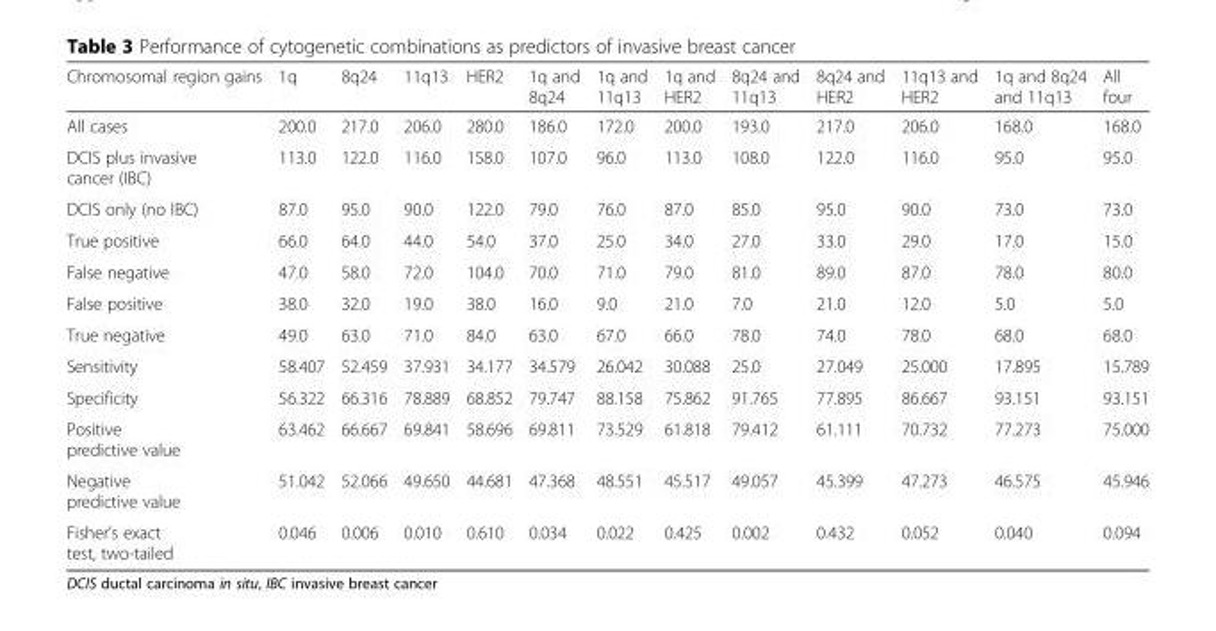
<table><thead><tr><td>Chromosomal region gains</td><td>1q</td><td>8q24</td><td>11q13</td><td>HER2</td><td>1q and 8q24</td><td>1q and 11q13</td><td>1q and HER2</td><td>8q24 and 11q13</td><td>8q24 and HER2</td><td>11q13 and HER2</td><td>1q and 8q24 and 11q13</td><td>All four</td></tr></thead><tbody><tr><td>All cases</td><td>200.0</td><td>217.0</td><td>206.0</td><td>280.0</td><td>186.0</td><td>172.0</td><td>200.0</td><td>193.0</td><td>217.0</td><td>206.0</td><td>168.0</td><td>168.0</td></tr><tr><td>DCIS plus invasive cancer (IBC)</td><td>113.0</td><td>122.0</td><td>116.0</td><td>158.0</td><td>107.0</td><td>96.0</td><td>113.0</td><td>108.0</td><td>122.0</td><td>116.0</td><td>95.0</td><td>95.0</td></tr><tr><td>DCIS only (no IBC)</td><td>87.0</td><td>95.0</td><td>90.0</td><td>122.0</td><td>79.0</td><td>76.0</td><td>87.0</td><td>85.0</td><td>95.0</td><td>90.0</td><td>73.0</td><td>73.0</td></tr><tr><td>True positive</td><td>66.0</td><td>64.0</td><td>44.0</td><td>54.0</td><td>37.0</td><td>25.0</td><td>34.0</td><td>27.0</td><td>33.0</td><td>29.0</td><td>17.0</td><td>15.0</td></tr><tr><td>False negative</td><td>47.0</td><td>58.0</td><td>72.0</td><td>104.0</td><td>70.0</td><td>71.0</td><td>79.0</td><td>81.0</td><td>89.0</td><td>87.0</td><td>78.0</td><td>80.0</td></tr><tr><td>False positive</td><td>38.0</td><td>32.0</td><td>19.0</td><td>38.0</td><td>16.0</td><td>9.0</td><td>21.0</td><td>7.0</td><td>21.0</td><td>12.0</td><td>5.0</td><td>5.0</td></tr><tr><td>True negative</td><td>49.0</td><td>63.0</td><td>71.0</td><td>84.0</td><td>63.0</td><td>67.0</td><td>66.0</td><td>78.0</td><td>74.0</td><td>78.0</td><td>68.0</td><td>68.0</td></tr><tr><td>Sensitivity</td><td>58.407</td><td>52.459</td><td>37.931</td><td>34.177</td><td>34.579</td><td>26.042</td><td>30.088</td><td>25.0</td><td>27.049</td><td>25.000</td><td>17.895</td><td>15.789</td></tr><tr><td>Specificity</td><td>56.322</td><td>66.316</td><td>78.889</td><td>68.852</td><td>79.747</td><td>88.158</td><td>75.862</td><td>91.765</td><td>77.895</td><td>86.667</td><td>93.151</td><td>93.151</td></tr><tr><td>Positive predictive value</td><td>63.462</td><td>66.667</td><td>69.841</td><td>58.696</td><td>69.811</td><td>73.529</td><td>61.818</td><td>79.412</td><td>61.111</td><td>70.732</td><td>77.273</td><td>75.000</td></tr><tr><td>Negative predictive value</td><td>51.042</td><td>52.066</td><td>49.650</td><td>44.681</td><td>47.368</td><td>48.551</td><td>45.517</td><td>49.057</td><td>45.399</td><td>47.273</td><td>46.575</td><td>45.946</td></tr><tr><td>Fisher’s exact test, two-tailed</td><td>0.046</td><td>0.006</td><td>0.010</td><td>0.610</td><td>0.034</td><td>0.022</td><td>0.425</td><td>0.002</td><td>0.432</td><td>0.052</td><td>0.040</td><td>0.094</td></tr></tbody></table>